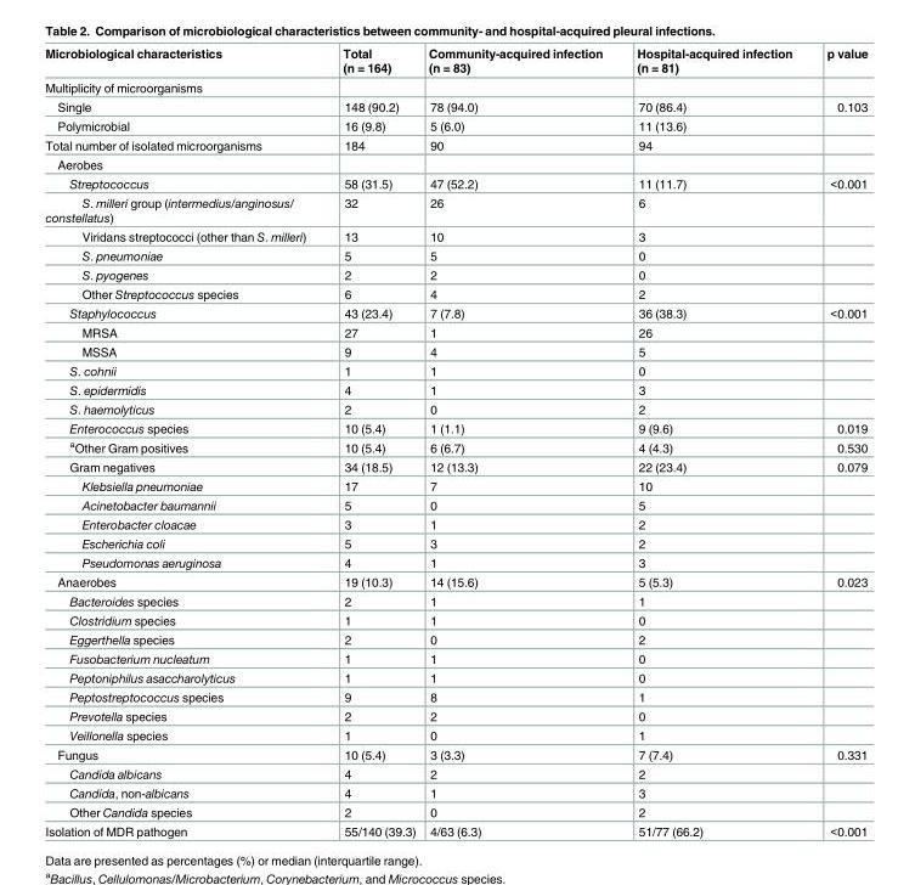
<table><thead><tr><td>Microbiological characteristics</td><td>Total (n = 164)</td><td>Community-acquired infection (n = 83)</td><td>Hospital-acquired infection (n = 81)</td><td>p value</td></tr></thead><tbody><tr><td colspan="5">Multiplicity of microorganisms</td></tr><tr><td>Single</td><td>148 (90.2)</td><td>78 (94.0)</td><td>70 (86.4)</td><td>0.103</td></tr><tr><td>Polymicrobial</td><td>16 (9.8)</td><td>5 (6.0)</td><td>11 (13.6)</td><td></td></tr><tr><td>Total number of isolated microorganisms</td><td>184</td><td>90</td><td>94</td><td></td></tr><tr><td colspan="5">Aerobes</td></tr><tr><td>Streptococcus</td><td>58 (31.5)</td><td>47 (52.2)</td><td>11 (11.7)</td><td>&lt;0.001</td></tr><tr><td>S. milleri group (intermedius/anginosus/ constellatus)</td><td>32</td><td>26</td><td>6</td><td></td></tr><tr><td>Viridans streptococci (other than S. milleri)</td><td>13</td><td>10</td><td>3</td><td></td></tr><tr><td>S. pneumoniae</td><td>5</td><td>5</td><td>0</td><td></td></tr><tr><td>S. pyogenes</td><td>2</td><td>2</td><td>0</td><td></td></tr><tr><td>Other Streptococcus species</td><td>6</td><td>4</td><td>2</td><td></td></tr><tr><td>Staphylococcus</td><td>43 (23.4)</td><td>7 (7.8)</td><td>36 (38.3)</td><td>&lt;0.001</td></tr><tr><td>MRSA</td><td>27</td><td>1</td><td>26</td><td></td></tr><tr><td>MSSA</td><td>9</td><td>4</td><td>5</td><td></td></tr><tr><td>S. cohnii</td><td>1</td><td>1</td><td>0</td><td></td></tr><tr><td>S. epidermidis</td><td>4</td><td>1</td><td>3</td><td></td></tr><tr><td>S. haemolyticus</td><td>2</td><td>0</td><td>2</td><td></td></tr><tr><td>Enterococcus species</td><td>10 (5.4)</td><td>1 (1.1)</td><td>9 (9.6)</td><td>0.019</td></tr><tr><td><sup>a</sup>Other Gram positives</td><td>10 (5.4)</td><td>6 (6.7)</td><td>4 (4.3)</td><td>0.530</td></tr><tr><td>Gram negatives</td><td>34 (18.5)</td><td>12 (13.3)</td><td>22 (23.4)</td><td>0.079</td></tr><tr><td>Klebsiella pneumoniae</td><td>17</td><td>7</td><td>10</td><td></td></tr><tr><td>Acinetobacter baumannii</td><td>5</td><td>0</td><td>5</td><td></td></tr><tr><td>Enterobacter cloacae</td><td>3</td><td>1</td><td>2</td><td></td></tr><tr><td>Escherichia coli</td><td>5</td><td>3</td><td>2</td><td></td></tr><tr><td>Pseudomonas aeruginosa</td><td>4</td><td>1</td><td>3</td><td></td></tr><tr><td>Anaerobes</td><td>19 (10.3)</td><td>14 (15.6)</td><td>5 (5.3)</td><td>0.023</td></tr><tr><td>Bacteroides species</td><td>2</td><td>1</td><td>1</td><td></td></tr><tr><td>Clostridium species</td><td>1</td><td>1</td><td>0</td><td></td></tr><tr><td>Eggerthella species</td><td>2</td><td>0</td><td>2</td><td></td></tr><tr><td>Fusobacterium nucleatum</td><td>1</td><td>1</td><td>0</td><td></td></tr><tr><td>Peptoniphilus asaccharolyticus</td><td>1</td><td>1</td><td>0</td><td></td></tr><tr><td>Peptostreptococcus species</td><td>9</td><td>8</td><td>1</td><td></td></tr><tr><td>Prevotella species</td><td>2</td><td>2</td><td>0</td><td></td></tr><tr><td>Veillonella species</td><td>1</td><td>0</td><td>1</td><td></td></tr><tr><td>Fungus</td><td>10 (5.4)</td><td>3 (3.3)</td><td>7 (7.4)</td><td>0.331</td></tr><tr><td>Candida albicans</td><td>4</td><td>2</td><td>2</td><td></td></tr><tr><td>Candida, non-albicans</td><td>4</td><td>1</td><td>3</td><td></td></tr><tr><td>Other Candida species</td><td>2</td><td>0</td><td>2</td><td></td></tr><tr><td>Isolation of MDR pathogen</td><td>55/140 (39.3)</td><td>4/63 (6.3)</td><td>51/77 (66.2)</td><td>&lt;0.001</td></tr></tbody></table>